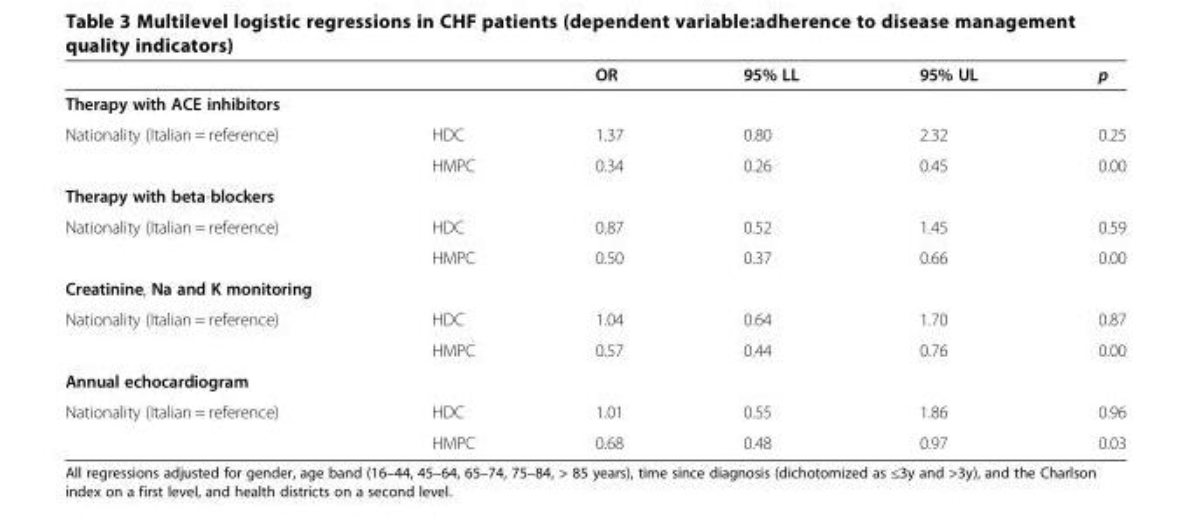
<table><thead><tr><td></td><td></td><td>OR</td><td>95% LL</td><td>95% UL</td><td>p</td></tr></thead><tbody><tr><td colspan="6">Therapy with ACE inhibitors</td></tr><tr><td rowspan="2">Nationality (Italian = reference)</td><td>HDC</td><td>1.37</td><td>0.80</td><td>2.32</td><td>0.25</td></tr><tr><td>HMPC</td><td>0.34</td><td>0.26</td><td>0.45</td><td>0.00</td></tr><tr><td colspan="6">Therapy with beta-blockers</td></tr><tr><td rowspan="2">Nationality (Italian = reference)</td><td>HDC</td><td>0.87</td><td>0.52</td><td>1.45</td><td>0.59</td></tr><tr><td>HMPC</td><td>0.50</td><td>0.37</td><td>0.66</td><td>0.00</td></tr><tr><td colspan="6">Creatinine, Na and K monitoring</td></tr><tr><td rowspan="2">Nationality (Italian = reference)</td><td>HDC</td><td>1.04</td><td>0.64</td><td>1.70</td><td>0.87</td></tr><tr><td>HMPC</td><td>0.57</td><td>0.44</td><td>0.76</td><td>0.00</td></tr><tr><td colspan="6">Annual echocardiogram</td></tr><tr><td rowspan="2">Nationality (Italian = reference)</td><td>HDC</td><td>1.01</td><td>0.55</td><td>1.86</td><td>0.96</td></tr><tr><td>HMPC</td><td>0.68</td><td>0.48</td><td>0.97</td><td>0.03</td></tr></tbody></table>